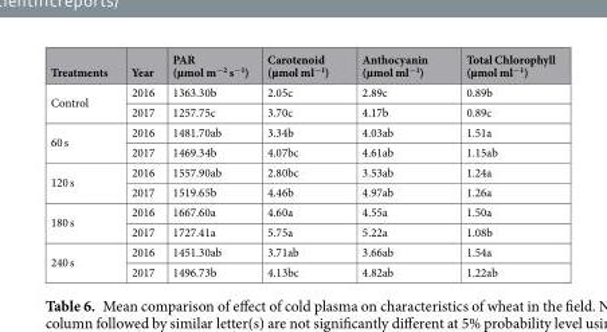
<table><thead><tr><td>Treatments</td><td>Year</td><td>PAR (µmol m<sup>−2</sup> s<sup>−1</sup>)</td><td>Carotenoid (µmol ml<sup>−1</sup>)</td><td>Anthocyanin (µmol ml<sup>−1</sup>)</td><td>Total Chlorophyll (µmol ml<sup>−1</sup>)</td></tr></thead><tbody><tr><td rowspan="2">Control</td><td>2016</td><td>1363.30b</td><td>2.05c</td><td>2.89c</td><td>0.89b</td></tr><tr><td>2017</td><td>1257.75c</td><td>3.70c</td><td>4.17b</td><td>0.89c</td></tr><tr><td rowspan="2">60 s</td><td>2016</td><td>1481.70ab</td><td>3.34b</td><td>4.03ab</td><td>1.51a</td></tr><tr><td>2017</td><td>1469.34b</td><td>4.07bc</td><td>4.61ab</td><td>1.15ab</td></tr><tr><td rowspan="2">120 s</td><td>2016</td><td>1557.90ab</td><td>2.80bc</td><td>3.53ab</td><td>1.24a</td></tr><tr><td>2017</td><td>1519.65b</td><td>4.46b</td><td>4.97ab</td><td>1.26a</td></tr><tr><td rowspan="2">180 s</td><td>2016</td><td>1667.60a</td><td>4.60a</td><td>4.55a</td><td>1.50a</td></tr><tr><td>2017</td><td>1727.41a</td><td>5.75a</td><td>5.22a</td><td>1.08b</td></tr><tr><td rowspan="2">240 s</td><td>2016</td><td>1451.30ab</td><td>3.71ab</td><td>3.66ab</td><td>1.54a</td></tr><tr><td>2017</td><td>1496.73b</td><td>4.13bc</td><td>4.82ab</td><td>1.22ab</td></tr></tbody></table>